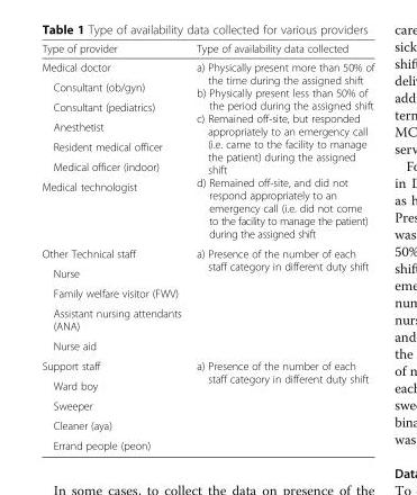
<table><thead><tr><td>Type of provider</td><td>Type of availability data collected</td></tr></thead><tbody><tr><td>Medical doctor</td><td rowspan="7">a) Physically present more than 50% of the time during the assigned shift b) Physically present less than 50% of the period during the assigned shift c) Remained off-site, but responded appropriately to an emergency call (i.e. came to the facility to manage the patient) during the assigned shift d) Remained off-site, and did not respond appropriately to an emergency call (i.e. did not come to the facility to manage the patient) during the assigned shift</td></tr><tr><td>Consultant (ob/gyn)</td></tr><tr><td>Consultant (pediatrics)</td></tr><tr><td>Anesthetist</td></tr><tr><td>Resident medical officer</td></tr><tr><td>Medical officer (indoor)</td></tr><tr><td>Medical technologist</td></tr><tr><td>Other Technical staff</td><td rowspan="5">a) Presence of the number of each staff category in different duty shift</td></tr><tr><td>Nurse</td></tr><tr><td>Family welfare visitor (FWV)</td></tr><tr><td>Assistant nursing attendants (ANA)</td></tr><tr><td>Nurse aid</td></tr><tr><td>Support staff</td><td rowspan="5">a) Presence of the number of each staff category in different duty shift</td></tr><tr><td>Ward boy</td></tr><tr><td>Sweeper</td></tr><tr><td>Cleaner (aya)</td></tr><tr><td>Errand people (peon)</td></tr></tbody></table>